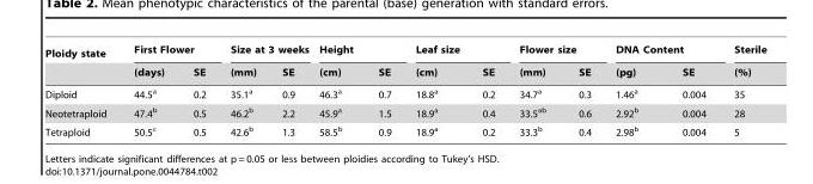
<table><thead><tr><td rowspan="2">Ploidy state</td><td colspan="2">First Flower</td><td colspan="2">Size at 3 weeks</td><td colspan="2">Height</td><td colspan="2">Leaf size</td><td colspan="2">Flower size</td><td colspan="2">DNA Content</td><td rowspan="2">Sterile (%)</td></tr><tr><td>(days)</td><td>SE</td><td>(mm)</td><td>SE</td><td>(cm)</td><td>SE</td><td>(cm)</td><td>SE</td><td>(mm)</td><td>SE</td><td>(pg)</td><td>SE</td></tr></thead><tbody><tr><td>Diploid</td><td>44.5<sup>a</sup></td><td>0.2</td><td>35.1<sup>a</sup></td><td>0.9</td><td>46.3<sup>a</sup></td><td>0.7</td><td>18.8<sup>a</sup></td><td>0.2</td><td>34.7<sup>a</sup></td><td>0.3</td><td>1.46<sup>a</sup></td><td>0.004</td><td>35</td></tr><tr><td>Neotetraploid</td><td>47.4<sup>b</sup></td><td>0.5</td><td>46.2<sup>b</sup></td><td>2.2</td><td>45.9<sup>a</sup></td><td>1.5</td><td>18.9<sup>a</sup></td><td>0.4</td><td>33.5<sup>ab</sup></td><td>0.6</td><td>2.92<sup>b</sup></td><td>0.004</td><td>28</td></tr><tr><td>Tetraploid</td><td>50.5<sup>c</sup></td><td>0.5</td><td>42.6<sup>b</sup></td><td>1.3</td><td>58.5<sup>b</sup></td><td>0.9</td><td>18.9<sup>a</sup></td><td>0.2</td><td>33.3<sup>b</sup></td><td>0.4</td><td>2.98<sup>b</sup></td><td>0.004</td><td>5</td></tr></tbody></table>